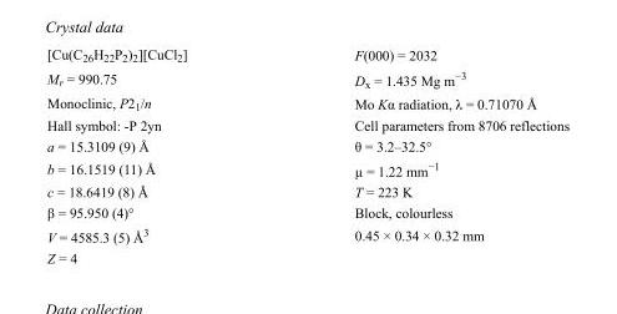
<table><tbody><tr><td>[Cu(C<sub>26</sub>H<sub>22</sub>P<sub>2</sub>)<sub>2</sub>][CuCl<sub>2</sub>]</td><td>F(000) = 2032</td></tr><tr><td>M<sub>r</sub> = 990.75</td><td>D<sub>x</sub> = 1.435 Mg m<sup>−3</sup></td></tr><tr><td>Monoclinic, P2<sub>1</sub>/n</td><td>Mo Kα radiation, λ = 0.71070 Å</td></tr><tr><td>Hall symbol: -P 2yn</td><td>Cell parameters from 8706 reflections</td></tr><tr><td>a = 15.3109 (9) Å</td><td>θ = 3.2–32.5°</td></tr><tr><td>b = 16.1519 (11) Å</td><td>µ = 1.22 mm<sup>−1</sup></td></tr><tr><td>c = 18.6419 (8) Å</td><td>T = 223 K</td></tr><tr><td>β = 95.950 (4)°</td><td>Block, colourless</td></tr><tr><td>V = 4585.3 (5) Å<sup>3</sup></td><td>0.45 × 0.34 × 0.32 mm</td></tr><tr><td>Z = 4</td><td></td></tr></tbody></table>